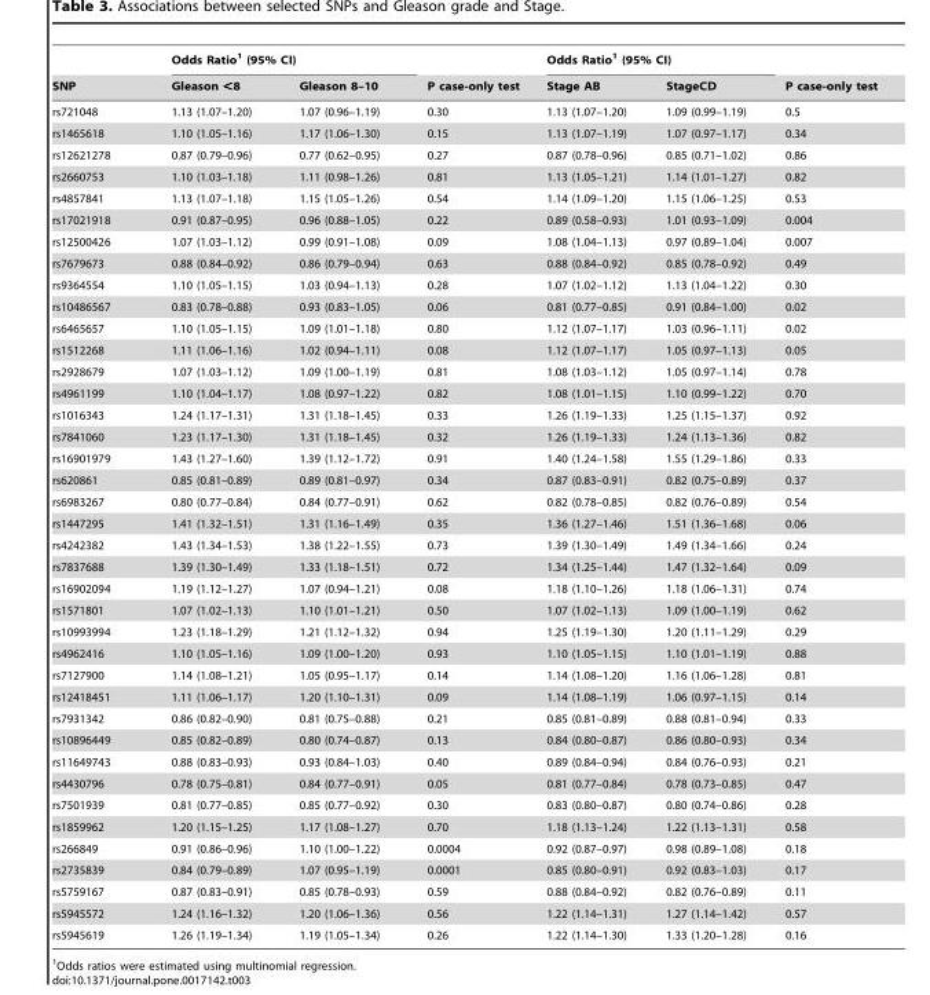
<table><thead><tr><td rowspan="2">SNP</td><td colspan="2">Odds Ratio<sup>1</sup> (95% CI)</td><td rowspan="2">P case-only test</td><td colspan="2">Odds Ratio<sup>1</sup> (95% CI)</td><td rowspan="2">P case-only test</td></tr><tr><td>Gleason &lt;8</td><td>Gleason 8–10</td><td>Stage AB</td><td>StageCD</td></tr></thead><tbody><tr><td>rs721048</td><td>1.13 (1.07–1.20)</td><td>1.07 (0.96–1.19)</td><td>0.30</td><td>1.13 (1.07–1.20)</td><td>1.09 (0.99–1.19)</td><td>0.5</td></tr><tr><td>rs1465618</td><td>1.10 (1.05–1.16)</td><td>1.17 (1.06–1.30)</td><td>0.15</td><td>1.13 (1.07–1.19)</td><td>1.07 (0.97–1.17)</td><td>0.34</td></tr><tr><td>rs12621278</td><td>0.87 (0.79–0.96)</td><td>0.77 (0.62–0.95)</td><td>0.27</td><td>0.87 (0.78–0.96)</td><td>0.85 (0.71–1.02)</td><td>0.86</td></tr><tr><td>rs2660753</td><td>1.10 (1.03–1.18)</td><td>1.11 (0.98–1.26)</td><td>0.81</td><td>1.13 (1.05–1.21)</td><td>1.14 (1.01–1.27)</td><td>0.82</td></tr><tr><td>rs4857841</td><td>1.13 (1.07–1.18)</td><td>1.15 (1.05–1.26)</td><td>0.54</td><td>1.14 (1.09–1.20)</td><td>1.15 (1.06–1.25)</td><td>0.53</td></tr><tr><td>rs17021918</td><td>0.91 (0.87–0.95)</td><td>0.96 (0.88–1.05)</td><td>0.22</td><td>0.89 (0.58–0.93)</td><td>1.01 (0.93–1.09)</td><td>0.004</td></tr><tr><td>rs12500426</td><td>1.07 (1.03–1.12)</td><td>0.99 (0.91–1.08)</td><td>0.09</td><td>1.08 (1.04–1.13)</td><td>0.97 (0.89–1.04)</td><td>0.007</td></tr><tr><td>rs7679673</td><td>0.88 (0.84–0.92)</td><td>0.86 (0.79–0.94)</td><td>0.63</td><td>0.88 (0.84–0.92)</td><td>0.85 (0.78–0.92)</td><td>0.49</td></tr><tr><td>rs9364554</td><td>1.10 (1.05–1.15)</td><td>1.03 (0.94–1.13)</td><td>0.28</td><td>1.07 (1.02–1.12)</td><td>1.13 (1.04–1.22)</td><td>0.30</td></tr><tr><td>rs10486567</td><td>0.83 (0.78–0.88)</td><td>0.93 (0.83–1.05)</td><td>0.06</td><td>0.81 (0.77–0.85)</td><td>0.91 (0.84–1.00)</td><td>0.02</td></tr><tr><td>rs6465657</td><td>1.10 (1.05–1.15)</td><td>1.09 (1.01–1.18)</td><td>0.80</td><td>1.12 (1.07–1.17)</td><td>1.03 (0.96–1.11)</td><td>0.02</td></tr><tr><td>rs1512268</td><td>1.11 (1.06–1.16)</td><td>1.02 (0.94–1.11)</td><td>0.08</td><td>1.12 (1.07–1.17)</td><td>1.05 (0.97–1.13)</td><td>0.05</td></tr><tr><td>rs2928679</td><td>1.07 (1.03–1.12)</td><td>1.09 (1.00–1.19)</td><td>0.81</td><td>1.08 (1.03–1.12)</td><td>1.05 (0.97–1.14)</td><td>0.78</td></tr><tr><td>rs4961199</td><td>1.10 (1.04–1.17)</td><td>1.08 (0.97–1.22)</td><td>0.82</td><td>1.08 (1.01–1.15)</td><td>1.10 (0.99–1.22)</td><td>0.70</td></tr><tr><td>rs1016343</td><td>1.24 (1.17–1.31)</td><td>1.31 (1.18–1.45)</td><td>0.33</td><td>1.26 (1.19–1.33)</td><td>1.25 (1.15–1.37)</td><td>0.92</td></tr><tr><td>rs7841060</td><td>1.23 (1.17–1.30)</td><td>1.31 (1.18–1.45)</td><td>0.32</td><td>1.26 (1.19–1.33)</td><td>1.24 (1.13–1.36)</td><td>0.82</td></tr><tr><td>rs16901979</td><td>1.43 (1.27–1.60)</td><td>1.39 (1.12–1.72)</td><td>0.91</td><td>1.40 (1.24–1.58)</td><td>1.55 (1.29–1.86)</td><td>0.33</td></tr><tr><td>rs620861</td><td>0.85 (0.81–0.89)</td><td>0.89 (0.81–0.97)</td><td>0.34</td><td>0.87 (0.83–0.91)</td><td>0.82 (0.75–0.89)</td><td>0.37</td></tr><tr><td>rs6983267</td><td>0.80 (0.77–0.84)</td><td>0.84 (0.77–0.91)</td><td>0.62</td><td>0.82 (0.78–0.85)</td><td>0.82 (0.76–0.89)</td><td>0.54</td></tr><tr><td>rs1447295</td><td>1.41 (1.32–1.51)</td><td>1.31 (1.16–1.49)</td><td>0.35</td><td>1.36 (1.27–1.46)</td><td>1.51 (1.36–1.68)</td><td>0.06</td></tr><tr><td>rs4242382</td><td>1.43 (1.34–1.53)</td><td>1.38 (1.22–1.55)</td><td>0.73</td><td>1.39 (1.30–1.49)</td><td>1.49 (1.34–1.66)</td><td>0.24</td></tr><tr><td>rs7837688</td><td>1.39 (1.30–1.49)</td><td>1.33 (1.18–1.51)</td><td>0.72</td><td>1.34 (1.25–1.44)</td><td>1.47 (1.32–1.64)</td><td>0.09</td></tr><tr><td>rs16902094</td><td>1.19 (1.12–1.27)</td><td>1.07 (0.94–1.21)</td><td>0.08</td><td>1.18 (1.10–1.26)</td><td>1.18 (1.06–1.31)</td><td>0.74</td></tr><tr><td>rs1571801</td><td>1.07 (1.02–1.13)</td><td>1.10 (1.01–1.21)</td><td>0.50</td><td>1.07 (1.02–1.13)</td><td>1.09 (1.00–1.19)</td><td>0.62</td></tr><tr><td>rs10993994</td><td>1.23 (1.18–1.29)</td><td>1.21 (1.12–1.32)</td><td>0.94</td><td>1.25 (1.19–1.30)</td><td>1.20 (1.11–1.29)</td><td>0.29</td></tr><tr><td>rs4962416</td><td>1.10 (1.05–1.16)</td><td>1.09 (1.00–1.20)</td><td>0.93</td><td>1.10 (1.05–1.15)</td><td>1.10 (1.01–1.19)</td><td>0.88</td></tr><tr><td>rs7127900</td><td>1.14 (1.08–1.21)</td><td>1.05 (0.95–1.17)</td><td>0.14</td><td>1.14 (1.08–1.20)</td><td>1.16 (1.06–1.28)</td><td>0.81</td></tr><tr><td>rs12418451</td><td>1.11 (1.06–1.17)</td><td>1.20 (1.10–1.31)</td><td>0.09</td><td>1.14 (1.08–1.19)</td><td>1.06 (0.97–1.15)</td><td>0.14</td></tr><tr><td>rs7931342</td><td>0.86 (0.82–0.90)</td><td>0.81 (0.75–0.88)</td><td>0.21</td><td>0.85 (0.81–0.89)</td><td>0.88 (0.81–0.94)</td><td>0.33</td></tr><tr><td>rs10896449</td><td>0.85 (0.82–0.89)</td><td>0.80 (0.74–0.87)</td><td>0.13</td><td>0.84 (0.80–0.87)</td><td>0.86 (0.80–0.93)</td><td>0.34</td></tr><tr><td>rs11649743</td><td>0.88 (0.83–0.93)</td><td>0.93 (0.84–1.03)</td><td>0.40</td><td>0.89 (0.84–0.94)</td><td>0.84 (0.76–0.93)</td><td>0.21</td></tr><tr><td>rs4430796</td><td>0.78 (0.75–0.81)</td><td>0.84 (0.77–0.91)</td><td>0.05</td><td>0.81 (0.77–0.84)</td><td>0.78 (0.73–0.85)</td><td>0.47</td></tr><tr><td>rs7501939</td><td>0.81 (0.77–0.85)</td><td>0.85 (0.77–0.92)</td><td>0.30</td><td>0.83 (0.80–0.87)</td><td>0.80 (0.74–0.86)</td><td>0.28</td></tr><tr><td>rs1859962</td><td>1.20 (1.15–1.25)</td><td>1.17 (1.08–1.27)</td><td>0.70</td><td>1.18 (1.13–1.24)</td><td>1.22 (1.13–1.31)</td><td>0.58</td></tr><tr><td>rs266849</td><td>0.91 (0.86–0.96)</td><td>1.10 (1.00–1.22)</td><td>0.0004</td><td>0.92 (0.87–0.97)</td><td>0.98 (0.89–1.08)</td><td>0.18</td></tr><tr><td>rs2735839</td><td>0.84 (0.79–0.89)</td><td>1.07 (0.95–1.19)</td><td>0.0001</td><td>0.85 (0.80–0.91)</td><td>0.92 (0.83–1.03)</td><td>0.17</td></tr><tr><td>rs5759167</td><td>0.87 (0.83–0.91)</td><td>0.85 (0.78–0.93)</td><td>0.59</td><td>0.88 (0.84–0.92)</td><td>0.82 (0.76–0.89)</td><td>0.11</td></tr><tr><td>rs5945572</td><td>1.24 (1.16–1.32)</td><td>1.20 (1.06–1.36)</td><td>0.56</td><td>1.22 (1.14–1.31)</td><td>1.27 (1.14–1.42)</td><td>0.57</td></tr><tr><td>rs5945619</td><td>1.26 (1.19–1.34)</td><td>1.19 (1.05–1.34)</td><td>0.26</td><td>1.22 (1.14–1.30)</td><td>1.33 (1.20–1.28)</td><td>0.16</td></tr></tbody></table>